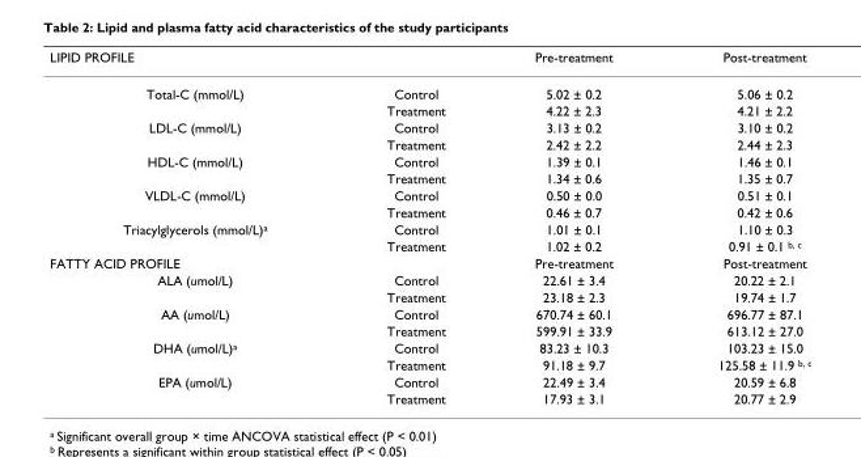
<table><thead><tr><td colspan="2">LIPID PROFILE</td><td rowspan="2">Pre-treatment 5.02 ± 0.2</td><td rowspan="2">Post-treatment 5.06 ± 0.2</td></tr><tr><td>Total-C (mmol/L)</td><td>Control</td></tr></thead><tbody><tr><td></td><td>Treatment</td><td>4.22 ± 2.3</td><td>4.21 ± 2.2</td></tr><tr><td rowspan="2">LDL-C (mmol/L)</td><td>Control</td><td>3.13 ± 0.2</td><td>3.10 ± 0.2</td></tr><tr><td>Treatment</td><td>2.42 ± 2.2</td><td>2.44 ± 2.3</td></tr><tr><td rowspan="2">HDL-C (mmol/L)</td><td>Control</td><td>1.39 ± 0.1</td><td>1.46 ± 0.1</td></tr><tr><td>Treatment</td><td>1.34 ± 0.6</td><td>1.35 ± 0.7</td></tr><tr><td rowspan="2">VLDL-C (mmol/L)</td><td>Control</td><td>0.50 ± 0.0</td><td>0.51 ± 0.1</td></tr><tr><td>Treatment</td><td>0.46 ± 0.7</td><td>0.42 ± 0.6</td></tr><tr><td rowspan="2">Triacylglycerols (mmol/L)<sup>a</sup></td><td>Control</td><td>1.01 ± 0.1</td><td>1.10 ± 0.3</td></tr><tr><td>Treatment</td><td>1.02 ± 0.2</td><td>0.91 ± 0.1 <sup>b, c</sup></td></tr><tr><td colspan="2">FATTY ACID PROFILE</td><td>Pre-treatment</td><td>Post-treatment</td></tr><tr><td rowspan="2">ALA (umol/L)</td><td>Control</td><td>22.61 ± 3.4</td><td>20.22 ± 2.1</td></tr><tr><td>Treatment</td><td>23.18 ± 2.3</td><td>19.74 ± 1.7</td></tr><tr><td rowspan="2">AA (umol/L)</td><td>Control</td><td>670.74 ± 60.1</td><td>696.77 ± 87.1</td></tr><tr><td>Treatment</td><td>599.91 ± 33.9</td><td>613.12 ± 27.0</td></tr><tr><td rowspan="2">DHA (umol/L)<sup>a</sup></td><td>Control</td><td>83.23 ± 10.3</td><td>103.23 ± 15.0</td></tr><tr><td>Treatment</td><td>91.18 ± 9.7</td><td>125.58 ± 11.9 <sup>b, c</sup></td></tr><tr><td rowspan="2">EPA (umol/L)</td><td>Control</td><td>22.49 ± 3.4</td><td>20.59 ± 6.8</td></tr><tr><td>Treatment</td><td>17.93 ± 3.1</td><td>20.77 ± 2.9</td></tr></tbody></table>